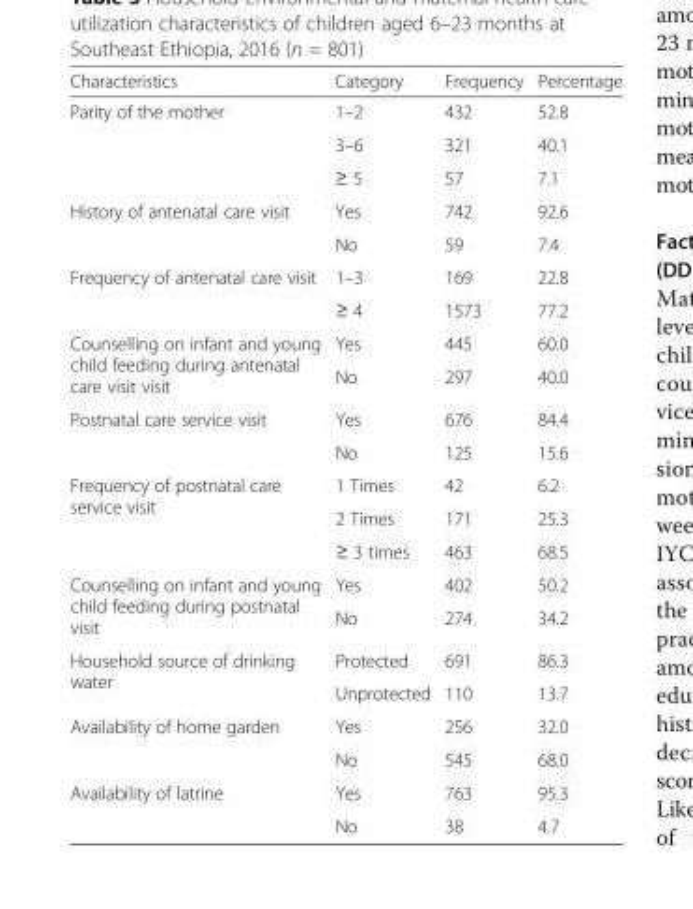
<table><thead><tr><td>Characteristics</td><td>Category</td><td>Frequency</td><td>Percentage</td></tr></thead><tbody><tr><td rowspan="3">Parity of the mother</td><td>1–2</td><td>432</td><td>52.8</td></tr><tr><td>3–6</td><td>321</td><td>40.1</td></tr><tr><td>≥ 5</td><td>57</td><td>7.1</td></tr><tr><td rowspan="2">History of antenatal care visit</td><td>Yes</td><td>742</td><td>92.6</td></tr><tr><td>No</td><td>59</td><td>7.4</td></tr><tr><td rowspan="2">Frequency of antenatal care visit</td><td>1–3</td><td>169</td><td>22.8</td></tr><tr><td>≥ 4</td><td>1573</td><td>77.2</td></tr><tr><td rowspan="2">Counselling on infant and young child feeding during antenatal care visit visit</td><td>Yes</td><td>445</td><td>60.0</td></tr><tr><td>No</td><td>297</td><td>40.0</td></tr><tr><td rowspan="2">Postnatal care service visit</td><td>Yes</td><td>676</td><td>84.4</td></tr><tr><td>No</td><td>125</td><td>15.6</td></tr><tr><td rowspan="3">Frequency of postnatal care service visit</td><td>1 Times</td><td>42</td><td>6.2</td></tr><tr><td>2 Times</td><td>171</td><td>25.3</td></tr><tr><td>≥ 3 times</td><td>463</td><td>68.5</td></tr><tr><td rowspan="2">Counselling on infant and young child feeding during postnatal visit</td><td>Yes</td><td>402</td><td>50.2</td></tr><tr><td>No</td><td>274</td><td>34.2</td></tr><tr><td rowspan="2">Household source of drinking water</td><td>Protected</td><td>691</td><td>86.3</td></tr><tr><td>Unprotected</td><td>110</td><td>13.7</td></tr><tr><td rowspan="2">Availability of home garden</td><td>Yes</td><td>256</td><td>32.0</td></tr><tr><td>No</td><td>545</td><td>68.0</td></tr><tr><td rowspan="2">Availability of latrine</td><td>Yes</td><td>763</td><td>95.3</td></tr><tr><td>No</td><td>38</td><td>4.7</td></tr></tbody></table>